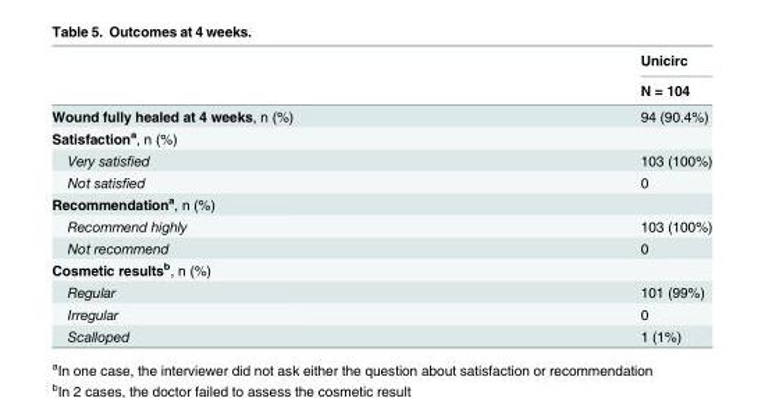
<table><thead><tr><td rowspan="2"></td><td rowspan="2">Unicirc N = 104</td></tr><tr></tr></thead><tbody><tr><td>Wound fully healed at 4 weeks, n (%)</td><td>94 (90.4%)</td></tr><tr><td colspan="2">Satisfaction<sup>a</sup>, n (%)</td></tr><tr><td>Very satisfied</td><td>103 (100%)</td></tr><tr><td>Not satisfied</td><td>0</td></tr><tr><td colspan="2">Recommendation<sup>a</sup>, n (%)</td></tr><tr><td>Recommend highly</td><td>103 (100%)</td></tr><tr><td>Not recommend</td><td>0</td></tr><tr><td colspan="2">Cosmetic results<sup>b</sup>, n (%)</td></tr><tr><td>Regular</td><td>101 (99%)</td></tr><tr><td>Irregular</td><td>0</td></tr><tr><td>Scalloped</td><td>1 (1%)</td></tr></tbody></table>